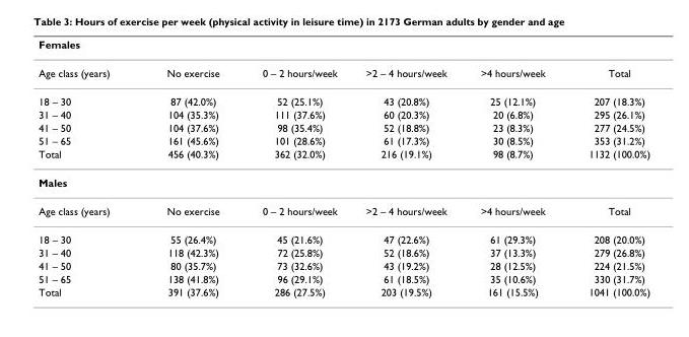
<table><thead><tr><td colspan="6">Females</td></tr><tr><td>Age class (years)</td><td>No exercise</td><td>0 – 2 hours/week</td><td>&gt;2 – 4 hours/week</td><td>&gt;4 hours/week</td><td>Total</td></tr></thead><tbody><tr><td>18 – 30</td><td>87 (42.0%)</td><td>52 (25.1%)</td><td>43 (20.8%)</td><td>25 (12.1%)</td><td>207 (18.3%)</td></tr><tr><td>31 – 40</td><td>104 (35.3%)</td><td>111 (37.6%)</td><td>60 (20.3%)</td><td>20 (6.8%)</td><td>295 (26.1%)</td></tr><tr><td>41 – 50</td><td>104 (37.6%)</td><td>98 (35.4%)</td><td>52 (18.8%)</td><td>23 (8.3%)</td><td>277 (24.5%)</td></tr><tr><td>51 – 65</td><td>161 (45.6%)</td><td>101 (28.6%)</td><td>61 (17.3%)</td><td>30 (8.5%)</td><td>353 (31.2%)</td></tr><tr><td>Total</td><td>456 (40.3%)</td><td>362 (32.0%)</td><td>216 (19.1%)</td><td>98 (8.7%)</td><td>1132 (100.0%)</td></tr><tr><td colspan="6">Males</td></tr><tr><td>Age class (years)</td><td>No exercise</td><td>0 – 2 hours/week</td><td>&gt;2 – 4 hours/week</td><td>&gt;4 hours/week</td><td>Total</td></tr><tr><td>18 – 30</td><td>55 (26.4%)</td><td>45 (21.6%)</td><td>47 (22.6%)</td><td>61 (29.3%)</td><td>208 (20.0%)</td></tr><tr><td>31 – 40</td><td>118 (42.3%)</td><td>72 (25.8%)</td><td>52 (18.6%)</td><td>37 (13.3%)</td><td>279 (26.8%)</td></tr><tr><td>41 – 50</td><td>80 (35.7%)</td><td>73 (32.6%)</td><td>43 (19.2%)</td><td>28 (12.5%)</td><td>224 (21.5%)</td></tr><tr><td>51 – 65</td><td>138 (41.8%)</td><td>96 (29.1%)</td><td>61 (18.5%)</td><td>35 (10.6%)</td><td>330 (31.7%)</td></tr><tr><td>Total</td><td>391 (37.6%)</td><td>286 (27.5%)</td><td>203 (19.5%)</td><td>161 (15.5%)</td><td>1041 (100.0%)</td></tr></tbody></table>